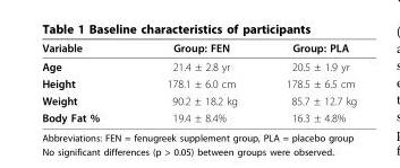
<table><thead><tr><td>Variable</td><td>Group: FEN</td><td>Group: PLA</td></tr></thead><tbody><tr><td>Age</td><td>21.4 ± 2.8 yr</td><td>20.5 ± 1.9 yr</td></tr><tr><td>Height</td><td>178.1 ± 6.0 cm</td><td>178.5 ± 6.5 cm</td></tr><tr><td>Weight</td><td>90.2 ± 18.2 kg</td><td>85.7 ± 12.7 kg</td></tr><tr><td>Body Fat %</td><td>19.4 ± 8.4%</td><td>16.3 ± 4.8%</td></tr></tbody></table>